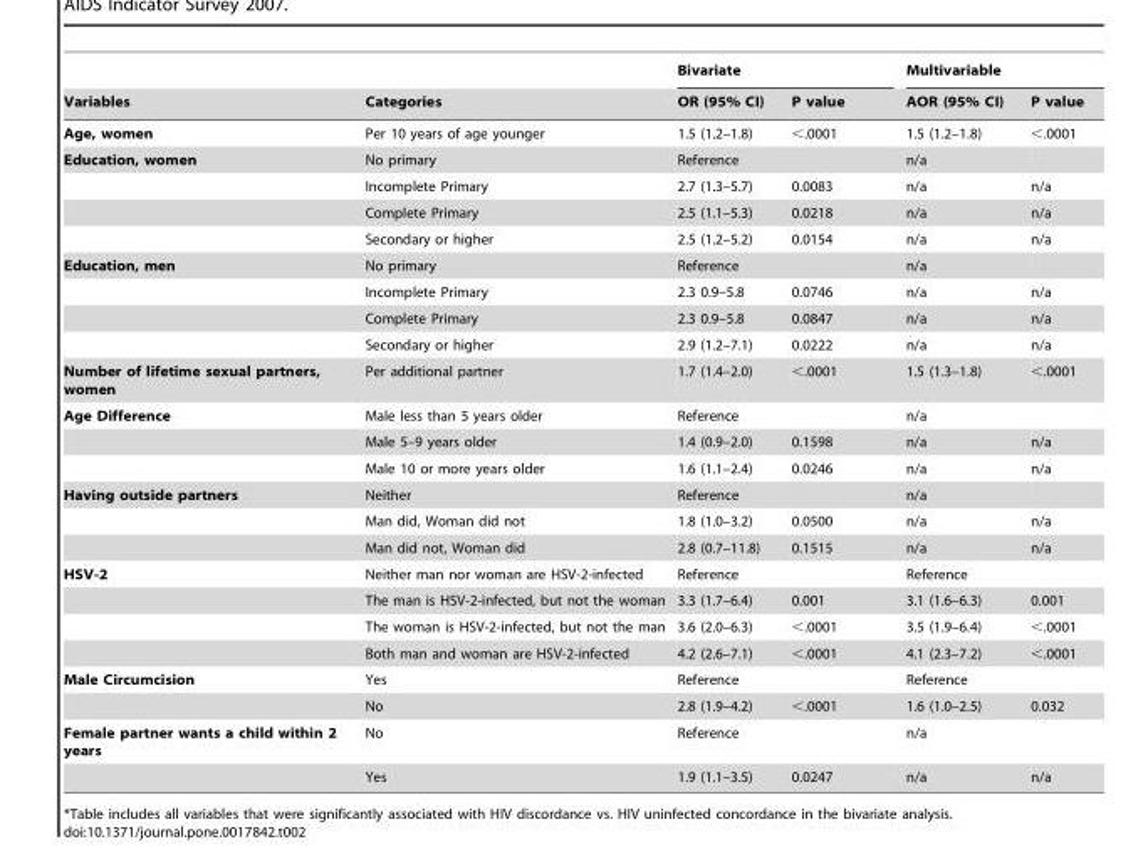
<table><thead><tr><td rowspan="2">Variables</td><td rowspan="2">Categories</td><td colspan="2">Bivariate</td><td colspan="2">Multivariable</td></tr><tr><td>OR (95% CI)</td><td>P value</td><td>AOR (95% CI)</td><td>P value</td></tr></thead><tbody><tr><td>Age, women</td><td>Per 10 years of age younger</td><td>1.5 (1.2–1.8)</td><td>&lt;.0001</td><td>1.5 (1.2–1.8)</td><td>&lt;.0001</td></tr><tr><td rowspan="4">Education, women</td><td>No primary</td><td>Reference</td><td></td><td>n/a</td><td></td></tr><tr><td>Incomplete Primary</td><td>2.7 (1.3–5.7)</td><td>0.0083</td><td>n/a</td><td>n/a</td></tr><tr><td>Complete Primary</td><td>2.5 (1.1–5.3)</td><td>0.0218</td><td>n/a</td><td>n/a</td></tr><tr><td>Secondary or higher</td><td>2.5 (1.2–5.2)</td><td>0.0154</td><td>n/a</td><td>n/a</td></tr><tr><td rowspan="4">Education, men</td><td>No primary</td><td>Reference</td><td></td><td>n/a</td><td></td></tr><tr><td>Incomplete Primary</td><td>2.3 0.9–5.8</td><td>0.0746</td><td>n/a</td><td>n/a</td></tr><tr><td>Complete Primary</td><td>2.3 0.9–5.8</td><td>0.0847</td><td>n/a</td><td>n/a</td></tr><tr><td>Secondary or higher</td><td>2.9 (1.2–7.1)</td><td>0.0222</td><td>n/a</td><td>n/a</td></tr><tr><td>Number of lifetime sexual partners, women</td><td>Per additional partner</td><td>1.7 (1.4–2.0)</td><td>&lt;.0001</td><td>1.5 (1.3–1.8)</td><td>&lt;.0001</td></tr><tr><td rowspan="3">Age Difference</td><td>Male less than 5 years older</td><td>Reference</td><td></td><td>n/a</td><td></td></tr><tr><td>Male 5–9 years older</td><td>1.4 (0.9–2.0)</td><td>0.1598</td><td>n/a</td><td>n/a</td></tr><tr><td>Male 10 or more years older</td><td>1.6 (1.1–2.4)</td><td>0.0246</td><td>n/a</td><td>n/a</td></tr><tr><td rowspan="3">Having outside partners</td><td>Neither</td><td>Reference</td><td></td><td>n/a</td><td></td></tr><tr><td>Man did, Woman did not</td><td>1.8 (1.0–3.2)</td><td>0.0500</td><td>n/a</td><td>n/a</td></tr><tr><td>Man did not, Woman did</td><td>2.8 (0.7–11.8)</td><td>0.1515</td><td>n/a</td><td>n/a</td></tr><tr><td rowspan="4">HSV-2</td><td>Neither man nor woman are HSV-2-infected</td><td>Reference</td><td></td><td>Reference</td><td></td></tr><tr><td>The man is HSV-2-infected, but not the woman</td><td>3.3 (1.7–6.4)</td><td>0.001</td><td>3.1 (1.6–6.3)</td><td>0.001</td></tr><tr><td>The woman is HSV-2-infected, but not the man</td><td>3.6 (2.0–6.3)</td><td>&lt;.0001</td><td>3.5 (1.9–6.4)</td><td>&lt;.0001</td></tr><tr><td>Both man and woman are HSV-2-infected</td><td>4.2 (2.6–7.1)</td><td>&lt;.0001</td><td>4.1 (2.3–7.2)</td><td>&lt;.0001</td></tr><tr><td rowspan="2">Male Circumcision</td><td>Yes</td><td>Reference</td><td></td><td>Reference</td><td></td></tr><tr><td>No</td><td>2.8 (1.9–4.2)</td><td>&lt;.0001</td><td>1.6 (1.0–2.5)</td><td>0.032</td></tr><tr><td rowspan="2">Female partner wants a child within 2 years</td><td>No</td><td>Reference</td><td></td><td>n/a</td><td></td></tr><tr><td>Yes</td><td>1.9 (1.1–3.5)</td><td>0.0247</td><td>n/a</td><td>n/a</td></tr></tbody></table>